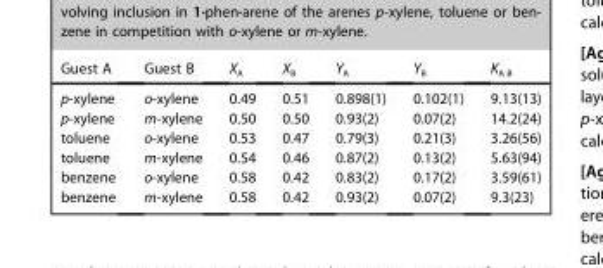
<table><thead><tr><td>Guest A</td><td>Guest B</td><td>X<sub>A</sub></td><td>X<sub>B</sub></td><td>Y<sub>A</sub></td><td>Y<sub>B</sub></td><td>K<sub>A:B</sub></td></tr></thead><tbody><tr><td>p-xylene</td><td>o-xylene</td><td>0.49</td><td>0.51</td><td>0.898(1)</td><td>0.102(1)</td><td>9.13(13)</td></tr><tr><td>p-xylene</td><td>m-xylene</td><td>0.50</td><td>0.50</td><td>0.93(2)</td><td>0.07(2)</td><td>14.2(24)</td></tr><tr><td>toluene</td><td>o-xylene</td><td>0.53</td><td>0.47</td><td>0.79(3)</td><td>0.21(3)</td><td>3.26(56)</td></tr><tr><td>toluene</td><td>m-xylene</td><td>0.54</td><td>0.46</td><td>0.87(2)</td><td>0.13(2)</td><td>5.63(94)</td></tr><tr><td>benzene</td><td>o-xylene</td><td>0.58</td><td>0.42</td><td>0.83(2)</td><td>0.17(2)</td><td>3.59(61)</td></tr><tr><td>benzene</td><td>m-xylene</td><td>0.58</td><td>0.42</td><td>0.93(2)</td><td>0.07(2)</td><td>9.3(23)</td></tr></tbody></table>